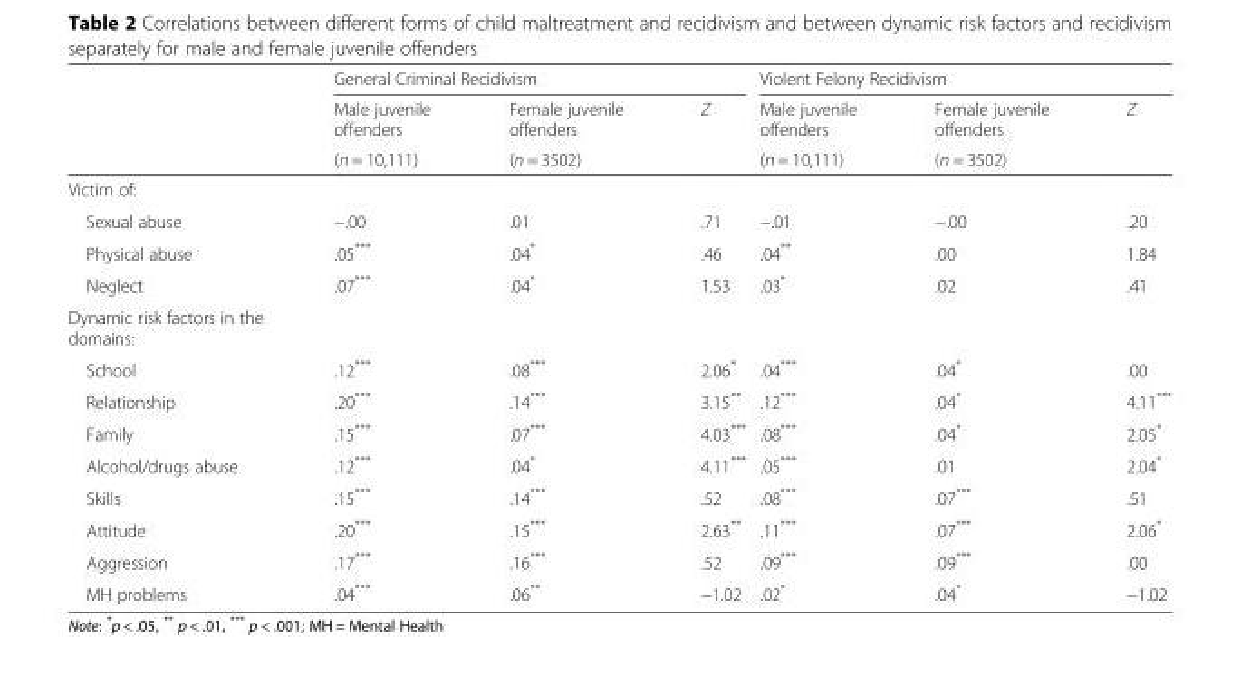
<table><thead><tr><td rowspan="3"></td><td colspan="3">General Criminal Recidivism</td><td colspan="3">Violent Felony Recidivism</td></tr><tr><td rowspan="2">Male juvenile offenders (n = 10,111)</td><td rowspan="2">Female juvenile offenders (n = 3502)</td><td rowspan="2">Z</td><td rowspan="2">Male juvenile offenders (n = 10,111)</td><td rowspan="2">Female juvenile offenders (n = 3502)</td><td rowspan="2">Z</td></tr><tr></tr></thead><tbody><tr><td colspan="7">Victim of:</td></tr><tr><td>Sexual abuse</td><td>−.00</td><td>.01</td><td>.71</td><td>−.01</td><td>−.00</td><td>.20</td></tr><tr><td>Physical abuse</td><td>.05***</td><td>.04*</td><td>.46</td><td>.04**</td><td>.00</td><td>1.84</td></tr><tr><td>Neglect</td><td>.07***</td><td>.04*</td><td>1.53</td><td>.03*</td><td>.02</td><td>.41</td></tr><tr><td colspan="7">Dynamic risk factors in the domains:</td></tr><tr><td>School</td><td>.12***</td><td>.08***</td><td>2.06*</td><td>.04***</td><td>.04*</td><td>.00</td></tr><tr><td>Relationship</td><td>.20***</td><td>.14***</td><td>3.15**</td><td>.12***</td><td>.04*</td><td>4.11***</td></tr><tr><td>Family</td><td>.15***</td><td>.07***</td><td>4.03***</td><td>.08***</td><td>.04*</td><td>2.05*</td></tr><tr><td>Alcohol/drugs abuse</td><td>.12***</td><td>.04*</td><td>4.11***</td><td>.05***</td><td>.01</td><td>2.04*</td></tr><tr><td>Skills</td><td>.15***</td><td>.14***</td><td>.52</td><td>.08***</td><td>.07***</td><td>.51</td></tr><tr><td>Attitude</td><td>.20***</td><td>.15***</td><td>2.63**</td><td>.11***</td><td>.07***</td><td>2.06*</td></tr><tr><td>Aggression</td><td>.17***</td><td>.16***</td><td>.52</td><td>.09***</td><td>.09***</td><td>.00</td></tr><tr><td>MH problems</td><td>.04***</td><td>.06**</td><td>−1.02</td><td>.02*</td><td>.04*</td><td>−1.02</td></tr></tbody></table>